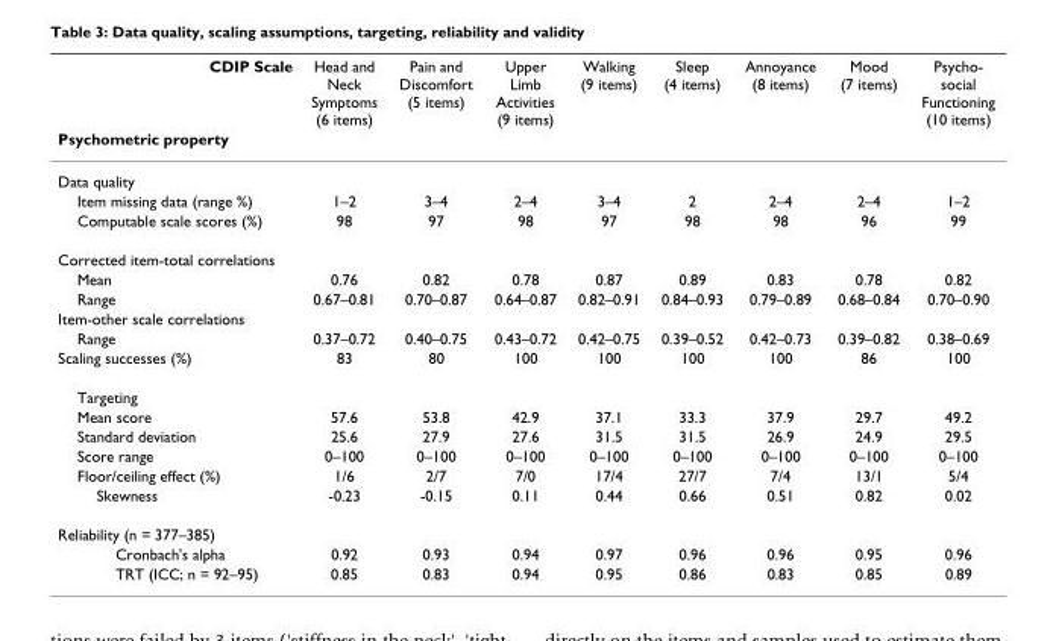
<table><thead><tr><td rowspan="2">CDIP Scale Psychometric property</td><td rowspan="2">Head and Neck Symptoms (6 items)</td><td rowspan="2">Pain and Discomfort (5 items)</td><td rowspan="2">Upper Limb Activities (9 items)</td><td rowspan="2">Walking (9 items)</td><td rowspan="2">Sleep (4 items)</td><td rowspan="2">Annoyance (8 items)</td><td rowspan="2">Mood (7 items)</td><td rowspan="2">Psycho- social Functioning (10 items)</td></tr><tr></tr></thead><tbody><tr><td colspan="9">Data quality</td></tr><tr><td>Item missing data (range %)</td><td>1–2</td><td>3–4</td><td>2–4</td><td>3–4</td><td>2</td><td>2–4</td><td>2–4</td><td>1–2</td></tr><tr><td>Computable scale scores (%)</td><td>98</td><td>97</td><td>98</td><td>97</td><td>98</td><td>98</td><td>96</td><td>99</td></tr><tr><td colspan="9">Corrected item-total correlations</td></tr><tr><td>Mean</td><td>0.76</td><td>0.82</td><td>0.78</td><td>0.87</td><td>0.89</td><td>0.83</td><td>0.78</td><td>0.82</td></tr><tr><td>Range</td><td>0.67–0.81</td><td>0.70–0.87</td><td>0.64–0.87</td><td>0.82–0.91</td><td>0.84–0.93</td><td>0.79–0.89</td><td>0.68–0.84</td><td>0.70–0.90</td></tr><tr><td colspan="9">Item-other scale correlations</td></tr><tr><td>Range</td><td>0.37–0.72</td><td>0.40–0.75</td><td>0.43–0.72</td><td>0.42–0.75</td><td>0.39–0.52</td><td>0.42–0.73</td><td>0.39–0.82</td><td>0.38–0.69</td></tr><tr><td>Scaling successes (%)</td><td>83</td><td>80</td><td>100</td><td>100</td><td>100</td><td>100</td><td>86</td><td>100</td></tr><tr><td colspan="9">Targeting</td></tr><tr><td>Mean score</td><td>57.6</td><td>53.8</td><td>42.9</td><td>37.1</td><td>33.3</td><td>37.9</td><td>29.7</td><td>49.2</td></tr><tr><td>Standard deviation</td><td>25.6</td><td>27.9</td><td>27.6</td><td>31.5</td><td>31.5</td><td>26.9</td><td>24.9</td><td>29.5</td></tr><tr><td>Score range</td><td>0–100</td><td>0–100</td><td>0–100</td><td>0–100</td><td>0–100</td><td>0–100</td><td>0–100</td><td>0–100</td></tr><tr><td>Floor/ceiling effect (%)</td><td>1/6</td><td>2/7</td><td>7/0</td><td>17/4</td><td>27/7</td><td>7/4</td><td>13/1</td><td>5/4</td></tr><tr><td>Skewness</td><td>-0.23</td><td>-0.15</td><td>0.11</td><td>0.44</td><td>0.66</td><td>0.51</td><td>0.82</td><td>0.02</td></tr><tr><td colspan="9">Reliability (n = 377–385)</td></tr><tr><td>Cronbach&#x27;s alpha</td><td>0.92</td><td>0.93</td><td>0.94</td><td>0.97</td><td>0.96</td><td>0.96</td><td>0.95</td><td>0.96</td></tr><tr><td>TRT (ICC; n = 92–95)</td><td>0.85</td><td>0.83</td><td>0.94</td><td>0.95</td><td>0.86</td><td>0.83</td><td>0.85</td><td>0.89</td></tr></tbody></table>